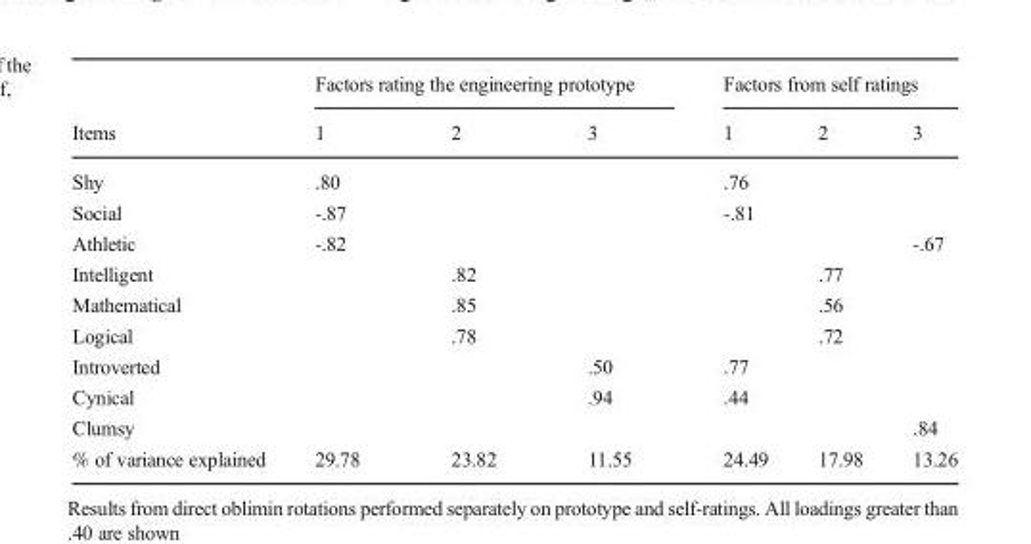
<table><thead><tr><td rowspan="2">Items</td><td colspan="3">Factors rating the engineering prototype</td><td colspan="3">Factors from self ratings</td></tr><tr><td>1</td><td>2</td><td>3</td><td>1</td><td>2</td><td>3</td></tr></thead><tbody><tr><td>Shy</td><td>.80</td><td></td><td></td><td>.76</td><td></td><td></td></tr><tr><td>Social</td><td>-.87</td><td></td><td></td><td>-.81</td><td></td><td></td></tr><tr><td>Athletic</td><td>-.82</td><td></td><td></td><td></td><td></td><td>-.67</td></tr><tr><td>Intelligent</td><td></td><td>.82</td><td></td><td></td><td>.77</td><td></td></tr><tr><td>Mathematical</td><td></td><td>.85</td><td></td><td></td><td>.56</td><td></td></tr><tr><td>Logical</td><td></td><td>.78</td><td></td><td></td><td>.72</td><td></td></tr><tr><td>Introverted</td><td></td><td></td><td>.50</td><td>.77</td><td></td><td></td></tr><tr><td>Cynical</td><td></td><td></td><td>.94</td><td>.44</td><td></td><td></td></tr><tr><td>Clumsy</td><td></td><td></td><td></td><td></td><td></td><td>.84</td></tr><tr><td>% of variance explained</td><td>29.78</td><td>23.82</td><td>11.55</td><td>24.49</td><td>17.98</td><td>13.26</td></tr></tbody></table>